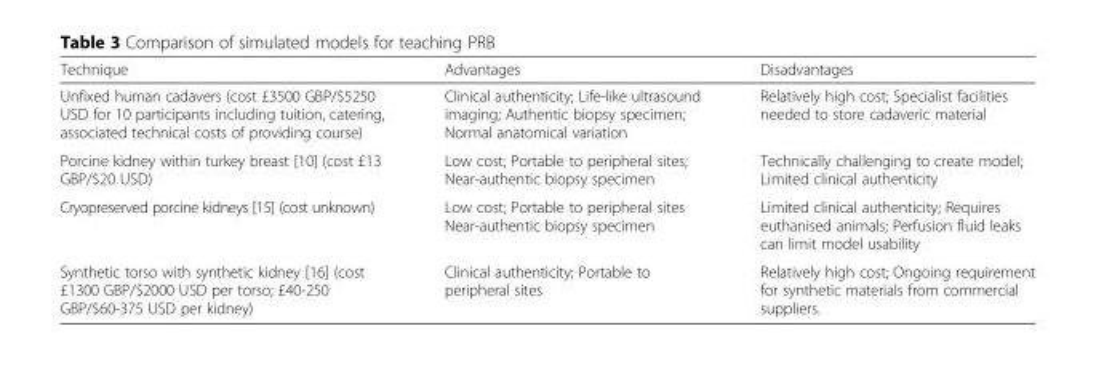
<table><thead><tr><td>Technique</td><td>Advantages</td><td>Disadvantages</td></tr></thead><tbody><tr><td>Unfixed human cadavers (cost £3500 GBP/$5250 USD for 10 participants including tuition, catering, associated technical costs of providing course)</td><td>Clinical authenticity; Life-like ultrasound imaging; Authentic biopsy specimen; Normal anatomical variation</td><td>Relatively high cost; Specialist facilities needed to store cadaveric material</td></tr><tr><td>Porcine kidney within turkey breast [10] (cost £13 GBP/$20 USD)</td><td>Low cost; Portable to peripheral sites; Near-authentic biopsy specimen</td><td>Technically challenging to create model; Limited clinical authenticity</td></tr><tr><td>Cryopreserved porcine kidneys [15] (cost unknown)</td><td>Low cost; Portable to peripheral sites Near-authentic biopsy specimen</td><td>Limited clinical authenticity; Requires euthanised animals; Perfusion fluid leaks can limit model usability</td></tr><tr><td>Synthetic torso with synthetic kidney [16] (cost £1300 GBP/$2000 USD per torso; £40-250 GBP/$60-375 USD per kidney)</td><td>Clinical authenticity; Portable to peripheral sites</td><td>Relatively high cost; Ongoing requirement for synthetic materials from commercial suppliers.</td></tr></tbody></table>